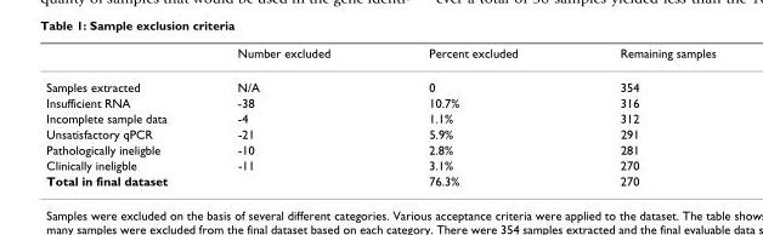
<table><thead><tr><td></td><td>Number excluded</td><td>Percent excluded</td><td>Remaining samples</td></tr></thead><tbody><tr><td>Samples extracted</td><td>N/A</td><td>0</td><td>354</td></tr><tr><td>Insufficient RNA</td><td>-38</td><td>10.7%</td><td>316</td></tr><tr><td>Incomplete sample data</td><td>-4</td><td>1.1%</td><td>312</td></tr><tr><td>Unsatisfactory qPCR</td><td>-21</td><td>5.9%</td><td>291</td></tr><tr><td>Pathologically ineligble</td><td>-10</td><td>2.8%</td><td>281</td></tr><tr><td>Clinically ineligble</td><td>-11</td><td>3.1%</td><td>270</td></tr><tr><td>Total in final dataset</td><td></td><td>76.3%</td><td>270</td></tr></tbody></table>